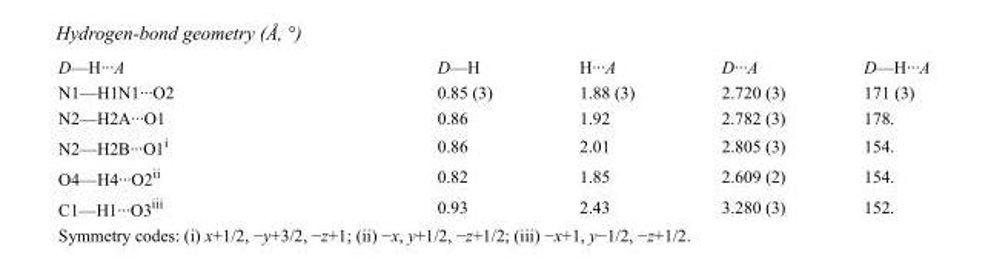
<table><tbody><tr><td>D—H···A</td><td>D—H</td><td>H···A</td><td>D···A</td><td>D—H···A</td></tr><tr><td>N1—H1N1···O2</td><td>0.85 (3)</td><td>1.88 (3)</td><td>2.720 (3)</td><td>171 (3)</td></tr><tr><td>N2—H2A···O1</td><td>0.86</td><td>1.92</td><td>2.782 (3)</td><td>178.</td></tr><tr><td>N2—H2B···O1<sup>i</sup></td><td>0.86</td><td>2.01</td><td>2.805 (3)</td><td>154.</td></tr><tr><td>O4—H4···O2<sup>ii</sup></td><td>0.82</td><td>1.85</td><td>2.609 (2)</td><td>154.</td></tr><tr><td>C1—H1···O3<sup>iii</sup></td><td>0.93</td><td>2.43</td><td>3.280 (3)</td><td>152.</td></tr></tbody></table>